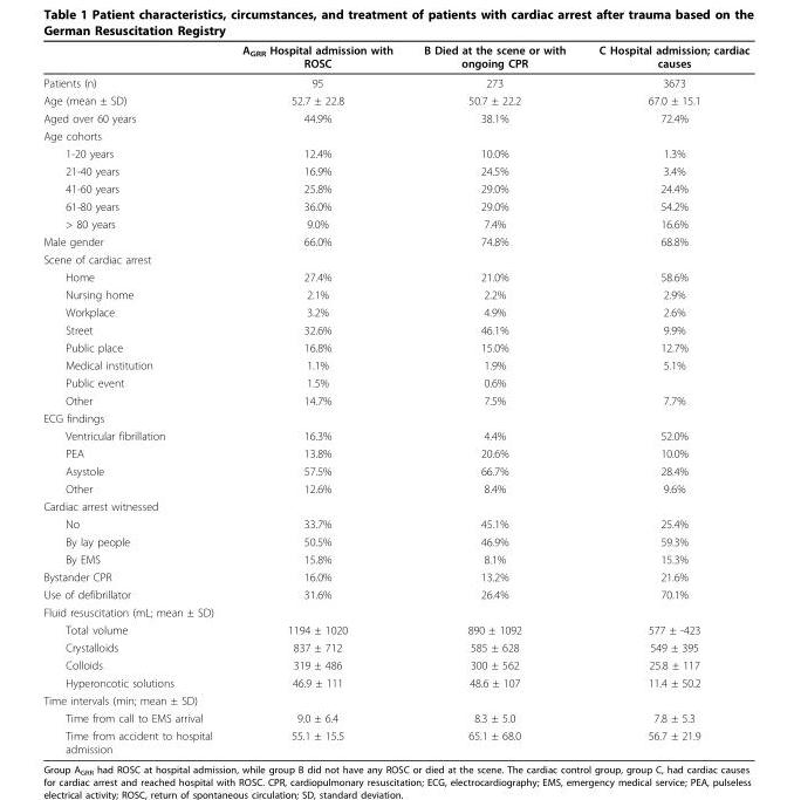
<table><thead><tr><td></td><td>A<sub>GRR</sub> Hospital admission with ROSC</td><td>B Died at the scene or with ongoing CPR</td><td>C Hospital admission; cardiac causes</td></tr></thead><tbody><tr><td>Patients (n)</td><td>95</td><td>273</td><td>3673</td></tr><tr><td>Age (mean ± SD)</td><td>52.7 ± 22.8</td><td>50.7 ± 22.2</td><td>67.0 ± 15.1</td></tr><tr><td>Aged over 60 years</td><td>44.9%</td><td>38.1%</td><td>72.4%</td></tr><tr><td colspan="4">Age cohorts</td></tr><tr><td>1-20 years</td><td>12.4%</td><td>10.0%</td><td>1.3%</td></tr><tr><td>21-40 years</td><td>16.9%</td><td>24.5%</td><td>3.4%</td></tr><tr><td>41-60 years</td><td>25.8%</td><td>29.0%</td><td>24.4%</td></tr><tr><td>61-80 years</td><td>36.0%</td><td>29.0%</td><td>54.2%</td></tr><tr><td>&gt; 80 years</td><td>9.0%</td><td>7.4%</td><td>16.6%</td></tr><tr><td>Male gender</td><td>66.0%</td><td>74.8%</td><td>68.8%</td></tr><tr><td colspan="4">Scene of cardiac arrest</td></tr><tr><td>Home</td><td>27.4%</td><td>21.0%</td><td>58.6%</td></tr><tr><td>Nursing home</td><td>2.1%</td><td>2.2%</td><td>2.9%</td></tr><tr><td>Workplace</td><td>3.2%</td><td>4.9%</td><td>2.6%</td></tr><tr><td>Street</td><td>32.6%</td><td>46.1%</td><td>9.9%</td></tr><tr><td>Public place</td><td>16.8%</td><td>15.0%</td><td>12.7%</td></tr><tr><td>Medical institution</td><td>1.1%</td><td>1.9%</td><td>5.1%</td></tr><tr><td>Public event</td><td>1.5%</td><td>0.6%</td><td></td></tr><tr><td>Other</td><td>14.7%</td><td>7.5%</td><td>7.7%</td></tr><tr><td colspan="4">ECG findings</td></tr><tr><td>Ventricular fibrillation</td><td>16.3%</td><td>4.4%</td><td>52.0%</td></tr><tr><td>PEA</td><td>13.8%</td><td>20.6%</td><td>10.0%</td></tr><tr><td>Asystole</td><td>57.5%</td><td>66.7%</td><td>28.4%</td></tr><tr><td>Other</td><td>12.6%</td><td>8.4%</td><td>9.6%</td></tr><tr><td colspan="4">Cardiac arrest witnessed</td></tr><tr><td>No</td><td>33.7%</td><td>45.1%</td><td>25.4%</td></tr><tr><td>By lay people</td><td>50.5%</td><td>46.9%</td><td>59.3%</td></tr><tr><td>By EMS</td><td>15.8%</td><td>8.1%</td><td>15.3%</td></tr><tr><td>Bystander CPR</td><td>16.0%</td><td>13.2%</td><td>21.6%</td></tr><tr><td>Use of defibrillator</td><td>31.6%</td><td>26.4%</td><td>70.1%</td></tr><tr><td colspan="4">Fluid resuscitation (mL; mean ± SD)</td></tr><tr><td>Total volume</td><td>1194 ± 1020</td><td>890 ± 1092</td><td>577 ± -423</td></tr><tr><td>Crystalloids</td><td>837 ± 712</td><td>585 ± 628</td><td>549 ± 395</td></tr><tr><td>Colloids</td><td>319 ± 486</td><td>300 ± 562</td><td>25.8 ± 117</td></tr><tr><td>Hyperoncotic solutions</td><td>46.9 ± 111</td><td>48.6 ± 107</td><td>11.4 ± 50.2</td></tr><tr><td colspan="4">Time intervals (min; mean ± SD)</td></tr><tr><td>Time from call to EMS arrival</td><td>9.0 ± 6.4</td><td>8.3 ± 5.0</td><td>7.8 ± 5.3</td></tr><tr><td>Time from accident to hospital admission</td><td>55.1 ± 15.5</td><td>65.1 ± 68.0</td><td>56.7 ± 21.9</td></tr></tbody></table>